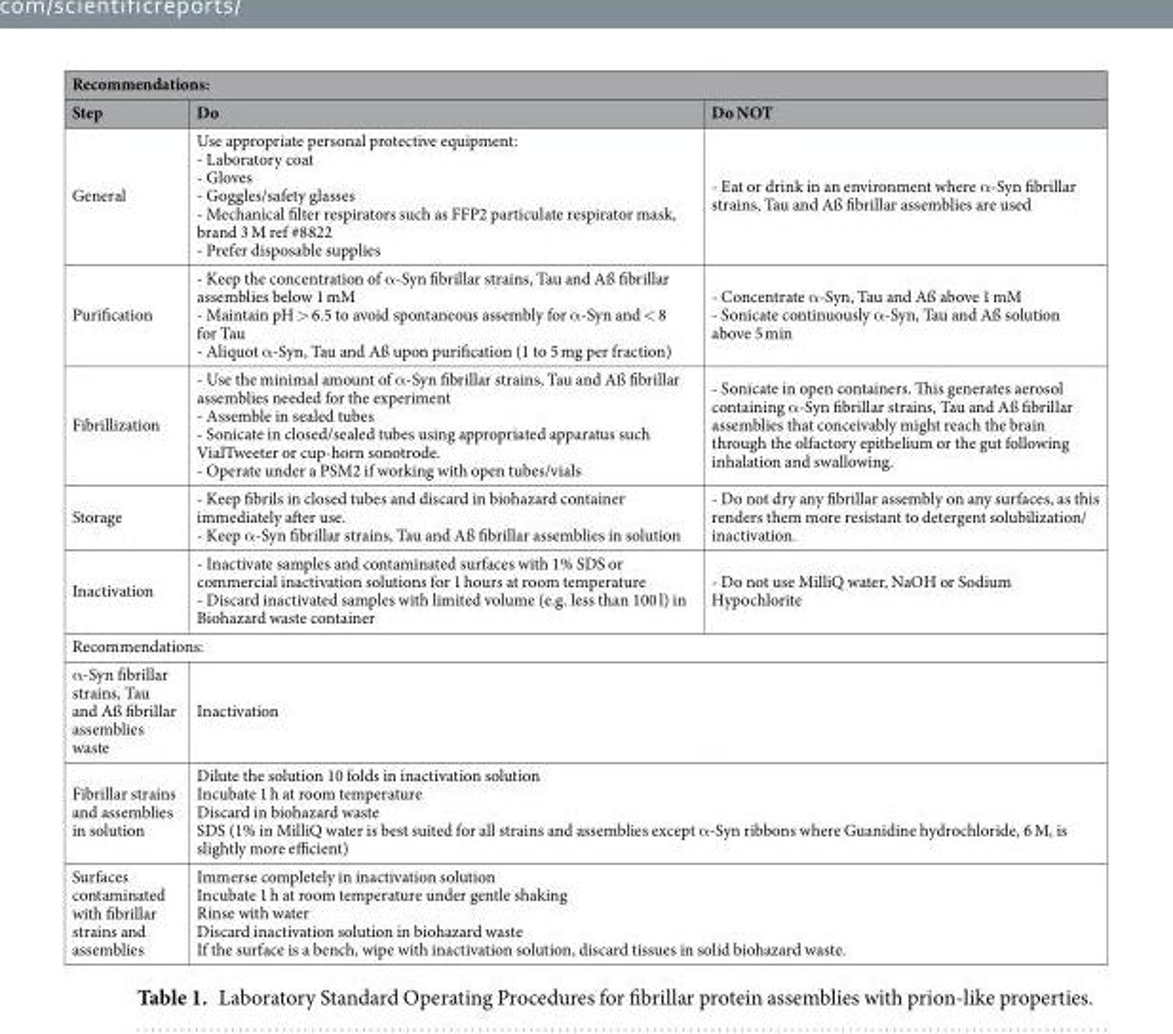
<table><thead><tr><td colspan="3">Recommendations:</td></tr><tr><td>Step</td><td>Do</td><td>Do NOT</td></tr></thead><tbody><tr><td>General</td><td>Use appropriate personal protective equipment: - Laboratory coat - Gloves - Goggles/safety glasses - Mechanical filter respirators such as FFP2 particulate respirator mask, brand 3 M ref #8822 - Prefer disposable supplies</td><td>- Eat or drink in an environment where α-Syn fibrillar strains, Tau and Aß fibrillar assemblies are used</td></tr><tr><td>Purification</td><td>- Keep the concentration of α-Syn fibrillar strains, Tau and Aß fibrillar assemblies below 1 mM - Maintain pH &gt; 6.5 to avoid spontaneous assembly for α-Syn and &lt; 8 for Tau - Aliquot α-Syn, Tau and Aß upon purification (1 to 5 mg per fraction)</td><td>- Concentrate α-Syn, Tau and Aß above 1 mM - Sonicate continuously α-Syn, Tau and Aß solution above 5 min</td></tr><tr><td>Fibrillization</td><td>- Use the minimal amount of α-Syn fibrillar strains, Tau and Aß fibrillar assemblies needed for the experiment - Assemble in sealed tubes - Sonicate in closed/sealed tubes using appropriated apparatus such VialTweeter or cup-horn sonotrode. - Operate under a PSM2 if working with open tubes/vials</td><td>- Sonicate in open containers. This generates aerosol containing α-Syn fibrillar strains, Tau and Aß fibrillar assemblies that conceivably might reach the brain through the olfactory epithelium or the gut following inhalation and swallowing.</td></tr><tr><td>Storage</td><td>- Keep fibrils in closed tubes and discard in biohazard container immediately after use. - Keep α-Syn fibrillar strains, Tau and Aß fibrillar assemblies in solution</td><td>- Do not dry any fibrillar assembly on any surfaces, as this renders them more resistant to detergent solubilization/ inactivation.</td></tr><tr><td>Inactivation</td><td>- Inactivate samples and contaminated surfaces with 1% SDS or commercial inactivation solutions for 1 hours at room temperature - Discard inactivated samples with limited volume (e.g. less than 100 l) in Biohazard waste container</td><td>- Do not use MilliQ water, NaOH or Sodium Hypochlorite</td></tr><tr><td colspan="3">Recommendations:</td></tr><tr><td>α-Syn fibrillar strains, Tau and Aß fibrillar assemblies waste</td><td colspan="2">Inactivation</td></tr><tr><td>Fibrillar strains and assemblies in solution</td><td colspan="2">Dilute the solution 10 folds in inactivation solution Incubate 1 h at room temperature Discard in biohazard waste SDS (1% in MilliQ water is best suited for all strains and assemblies except α-Syn ribbons where Guanidine hydrochloride, 6 M, is slightly more efficient)</td></tr><tr><td>Surfaces contaminated with fibrillar strains and assemblies</td><td colspan="2">Immerse completely in inactivation solution Incubate 1 h at room temperature under gentle shaking Rinse with water Discard inactivation solution in biohazard waste If the surface is a bench, wipe with inactivation solution, discard tissues in solid biohazard waste.</td></tr></tbody></table>